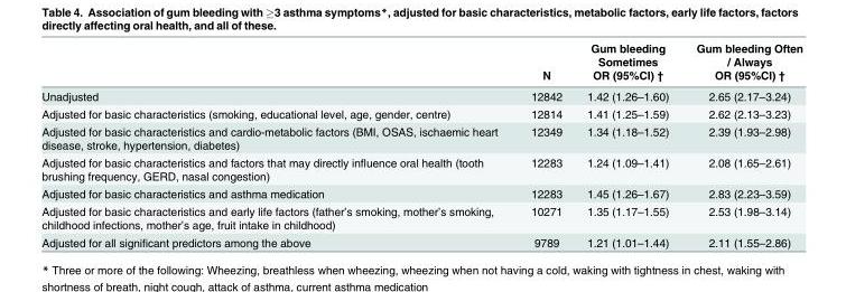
<table><thead><tr><td rowspan="2"></td><td rowspan="2">N</td><td rowspan="2">Gum bleeding Sometimes OR (95%CI) †</td><td rowspan="2">Gum bleeding Often / Always OR (95%CI) †</td></tr><tr></tr></thead><tbody><tr><td>Unadjusted</td><td>12842</td><td>1.42 (1.26–1.60)</td><td>2.65 (2.17–3.24)</td></tr><tr><td>Adjusted for basic characteristics (smoking, educational level, age, gender, centre)</td><td>12814</td><td>1.41 (1.25–1.59)</td><td>2.62 (2.13–3.23)</td></tr><tr><td>Adjusted for basic characteristics and cardio-metabolic factors (BMI, OSAS, ischaemic heart disease, stroke, hypertension, diabetes)</td><td>12349</td><td>1.34 (1.18–1.52)</td><td>2.39 (1.93–2.98)</td></tr><tr><td>Adjusted for basic characteristics and factors that may directly influence oral health (tooth brushing frequency, GERD, nasal congestion)</td><td>12283</td><td>1.24 (1.09–1.41)</td><td>2.08 (1.65–2.61)</td></tr><tr><td>Adjusted for basic characteristics and asthma medication</td><td>12283</td><td>1.45 (1.26–1.67)</td><td>2.83 (2.23–3.59)</td></tr><tr><td>Adjusted for basic characteristics and early life factors (father’s smoking, mother’s smoking, childhood infections, mother’s age, fruit intake in childhood)</td><td>10271</td><td>1.35 (1.17–1.55)</td><td>2.53 (1.98–3.14)</td></tr><tr><td>Adjusted for all significant predictors among the above</td><td>9789</td><td>1.21 (1.01–1.44)</td><td>2.11 (1.55–2.86)</td></tr></tbody></table>